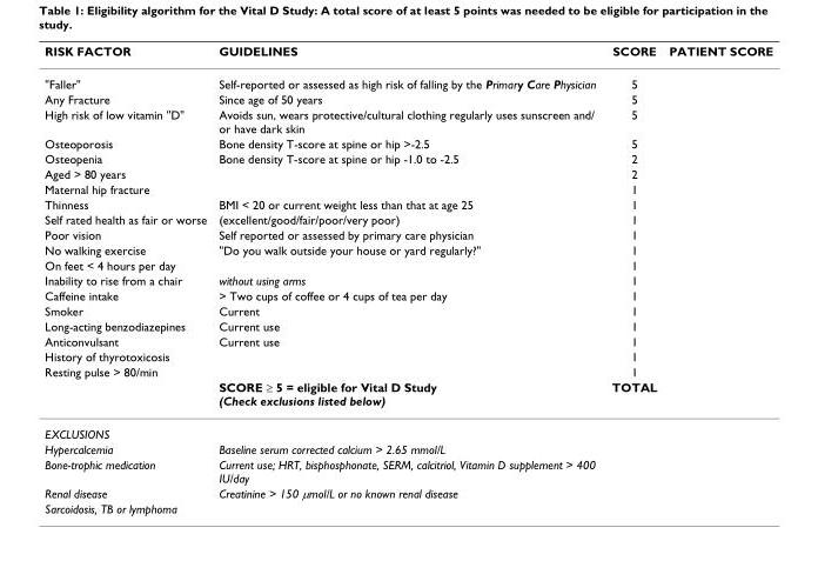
<table><thead><tr><td>RISK FACTOR</td><td>GUIDELINES</td><td>SCORE</td><td>PATIENT SCORE</td></tr></thead><tbody><tr><td>&quot;Faller&quot;</td><td>Self-reported or assessed as high risk of falling by the Primary Care Physician</td><td>5</td><td></td></tr><tr><td>Any Fracture</td><td>Since age of 50 years</td><td>5</td><td></td></tr><tr><td>High risk of low vitamin &quot;D&quot;</td><td>Avoids sun, wears protective/cultural clothing regularly uses sunscreen and/ or have dark skin</td><td>5</td><td></td></tr><tr><td>Osteoporosis</td><td>Bone density T-score at spine or hip &gt;-2.5</td><td>5</td><td></td></tr><tr><td>Osteopenia</td><td>Bone density T-score at spine or hip -1.0 to -2.5</td><td>2</td><td></td></tr><tr><td>Aged &gt; 80 years</td><td></td><td>2</td><td></td></tr><tr><td>Maternal hip fracture</td><td></td><td>1</td><td></td></tr><tr><td>Thinness</td><td>BMI &lt; 20 or current weight less than that at age 25</td><td>1</td><td></td></tr><tr><td>Self rated health as fair or worse</td><td>(excellent/good/fair/poor/very poor)</td><td>1</td><td></td></tr><tr><td>Poor vision</td><td>Self reported or assessed by primary care physician</td><td>1</td><td></td></tr><tr><td>No walking exercise</td><td>&quot;Do you walk outside your house or yard regularly?&quot;</td><td>1</td><td></td></tr><tr><td>On feet &lt; 4 hours per day</td><td></td><td>1</td><td></td></tr><tr><td>Inability to rise from a chair</td><td>without using arms</td><td>1</td><td></td></tr><tr><td>Caffeine intake</td><td>&gt; Two cups of coffee or 4 cups of tea per day</td><td>1</td><td></td></tr><tr><td>Smoker</td><td>Current</td><td>1</td><td></td></tr><tr><td>Long-acting benzodiazepines</td><td>Current use</td><td>1</td><td></td></tr><tr><td>Anticonvulsant</td><td>Current use</td><td>1</td><td></td></tr><tr><td>History of thyrotoxicosis</td><td></td><td>1</td><td></td></tr><tr><td rowspan="2">Resting pulse &gt; 80/min</td><td></td><td>1</td><td></td></tr><tr><td>SCORE ≥ 5 = eligible for Vital D Study (Check exclusions listed below)</td><td>TOTAL</td><td></td></tr><tr><td colspan="4">EXCLUSIONS</td></tr><tr><td>Hypercalcemia</td><td>Baseline serum corrected calcium &gt; 2.65 mmol/L</td><td></td><td></td></tr><tr><td>Bone-trophic medication</td><td>Current use; HRT, bisphosphonate, SERM, calcitriol, Vitamin D supplement &gt; 400 IU/day</td><td></td><td></td></tr><tr><td>Renal disease</td><td>Creatinine &gt; 150 μmol/L or no known renal disease</td><td></td><td></td></tr><tr><td>Sarcoidosis, TB or lymphoma</td><td></td><td></td><td></td></tr></tbody></table>